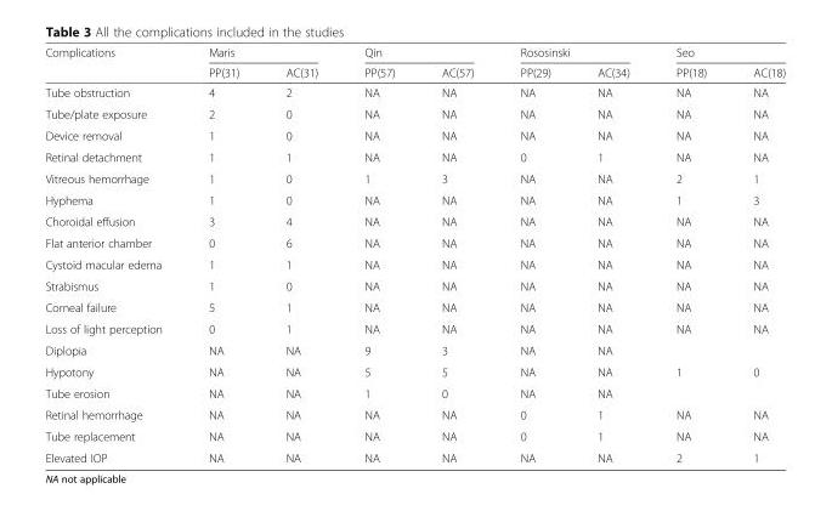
<table><thead><tr><td rowspan="2">Complications</td><td colspan="2">Maris</td><td colspan="2">Qin</td><td colspan="2">Rososinski</td><td colspan="2">Seo</td></tr><tr><td>PP(31)</td><td>AC(31)</td><td>PP(57)</td><td>AC(57)</td><td>PP(29)</td><td>AC(34)</td><td>PP(18)</td><td>AC(18)</td></tr></thead><tbody><tr><td>Tube obstruction</td><td>4</td><td>2</td><td>NA</td><td>NA</td><td>NA</td><td>NA</td><td>NA</td><td>NA</td></tr><tr><td>Tube/plate exposure</td><td>2</td><td>0</td><td>NA</td><td>NA</td><td>NA</td><td>NA</td><td>NA</td><td>NA</td></tr><tr><td>Device removal</td><td>1</td><td>0</td><td>NA</td><td>NA</td><td>NA</td><td>NA</td><td>NA</td><td>NA</td></tr><tr><td>Retinal detachment</td><td>1</td><td>1</td><td>NA</td><td>NA</td><td>0</td><td>1</td><td>NA</td><td>NA</td></tr><tr><td>Vitreous hemorrhage</td><td>1</td><td>0</td><td>1</td><td>3</td><td>NA</td><td>NA</td><td>2</td><td>1</td></tr><tr><td>Hyphema</td><td>1</td><td>0</td><td>NA</td><td>NA</td><td>NA</td><td>NA</td><td>1</td><td>3</td></tr><tr><td>Choroidal effusion</td><td>3</td><td>4</td><td>NA</td><td>NA</td><td>NA</td><td>NA</td><td>NA</td><td>NA</td></tr><tr><td>Flat anterior chamber</td><td>0</td><td>6</td><td>NA</td><td>NA</td><td>NA</td><td>NA</td><td>NA</td><td>NA</td></tr><tr><td>Cystoid macular edema</td><td>1</td><td>1</td><td>NA</td><td>NA</td><td>NA</td><td>NA</td><td>NA</td><td>NA</td></tr><tr><td>Strabismus</td><td>1</td><td>0</td><td>NA</td><td>NA</td><td>NA</td><td>NA</td><td>NA</td><td>NA</td></tr><tr><td>Corneal failure</td><td>5</td><td>1</td><td>NA</td><td>NA</td><td>NA</td><td>NA</td><td>NA</td><td>NA</td></tr><tr><td>Loss of light perception</td><td>0</td><td>1</td><td>NA</td><td>NA</td><td>NA</td><td>NA</td><td>NA</td><td>NA</td></tr><tr><td>Diplopia</td><td>NA</td><td>NA</td><td>9</td><td>3</td><td>NA</td><td>NA</td><td></td><td></td></tr><tr><td>Hypotony</td><td>NA</td><td>NA</td><td>5</td><td>5</td><td>NA</td><td>NA</td><td>1</td><td>0</td></tr><tr><td>Tube erosion</td><td>NA</td><td>NA</td><td>1</td><td>0</td><td>NA</td><td>NA</td><td></td><td></td></tr><tr><td>Retinal hemorrhage</td><td>NA</td><td>NA</td><td>NA</td><td>NA</td><td>0</td><td>1</td><td>NA</td><td>NA</td></tr><tr><td>Tube replacement</td><td>NA</td><td>NA</td><td>NA</td><td>NA</td><td>0</td><td>1</td><td>NA</td><td>NA</td></tr><tr><td>Elevated IOP</td><td>NA</td><td>NA</td><td>NA</td><td>NA</td><td>NA</td><td>NA</td><td>2</td><td>1</td></tr></tbody></table>